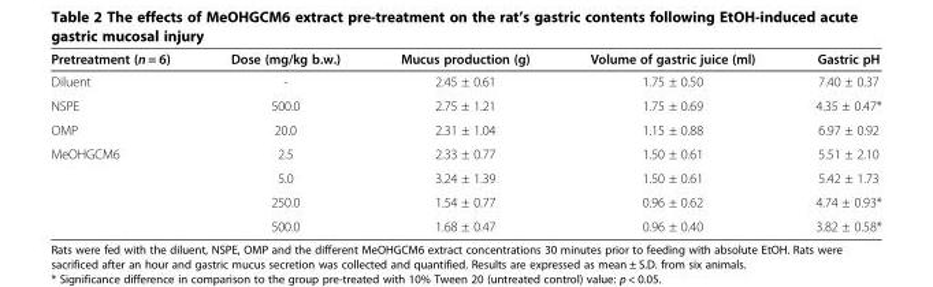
<table><thead><tr><td>Pretreatment (n = 6)</td><td>Dose (mg/kg b.w.)</td><td>Mucus production (g)</td><td>Volume of gastric juice (ml)</td><td>Gastric pH</td></tr></thead><tbody><tr><td>Diluent</td><td>-</td><td>2.45 ± 0.61</td><td>1.75 ± 0.50</td><td>7.40 ± 0.37</td></tr><tr><td>NSPE</td><td>500.0</td><td>2.75 ± 1.21</td><td>1.75 ± 0.69</td><td>4.35 ± 0.47*</td></tr><tr><td>OMP</td><td>20.0</td><td>2.31 ± 1.04</td><td>1.15 ± 0.88</td><td>6.97 ± 0.92</td></tr><tr><td rowspan="4">MeOHGCM6</td><td>2.5</td><td>2.33 ± 0.77</td><td>1.50 ± 0.61</td><td>5.51 ± 2.10</td></tr><tr><td>5.0</td><td>3.24 ± 1.39</td><td>1.50 ± 0.61</td><td>5.42 ± 1.73</td></tr><tr><td>250.0</td><td>1.54 ± 0.77</td><td>0.96 ± 0.62</td><td>4.74 ± 0.93*</td></tr><tr><td>500.0</td><td>1.68 ± 0.47</td><td>0.96 ± 0.40</td><td>3.82 ± 0.58*</td></tr></tbody></table>